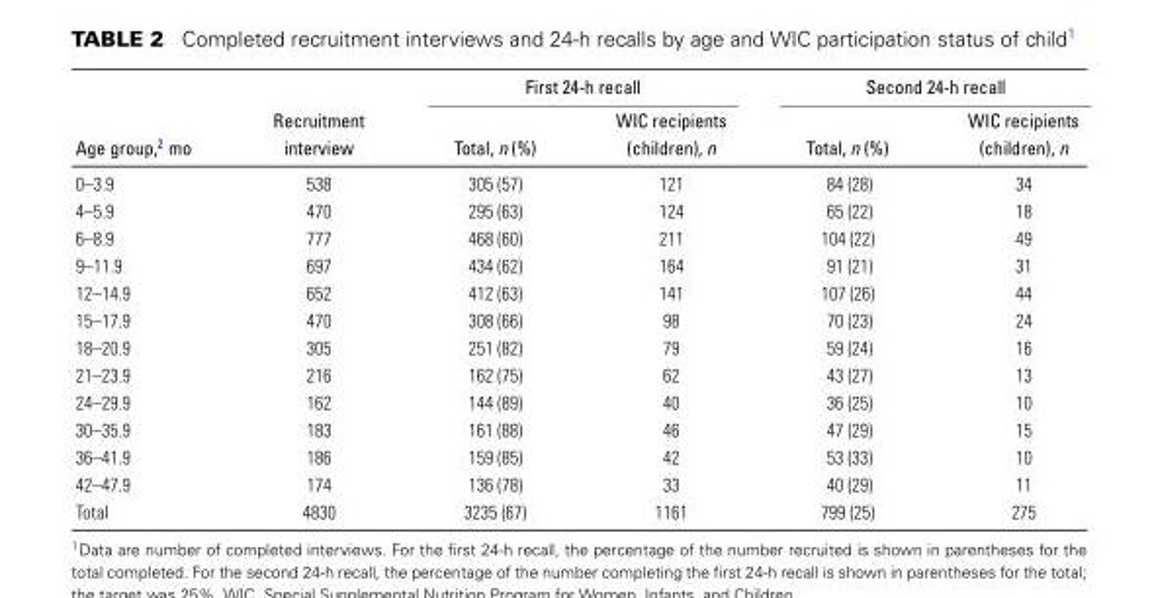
<table><thead><tr><td rowspan="2">Age group,<sup>2</sup> mo</td><td rowspan="2">Recruitment interview</td><td colspan="2">First 24-h recall</td><td colspan="2">Second 24-h recall</td></tr><tr><td>Total, n (%)</td><td>WIC recipients (children), n</td><td>Total, n (%)</td><td>WIC recipients (children), n</td></tr></thead><tbody><tr><td>0–3.9</td><td>538</td><td>305 (57)</td><td>121</td><td>84 (28)</td><td>34</td></tr><tr><td>4–5.9</td><td>470</td><td>295 (63)</td><td>124</td><td>65 (22)</td><td>18</td></tr><tr><td>6–8.9</td><td>777</td><td>468 (60)</td><td>211</td><td>104 (22)</td><td>49</td></tr><tr><td>9–11.9</td><td>697</td><td>434 (62)</td><td>164</td><td>91 (21)</td><td>31</td></tr><tr><td>12–14.9</td><td>652</td><td>412 (63)</td><td>141</td><td>107 (26)</td><td>44</td></tr><tr><td>15–17.9</td><td>470</td><td>308 (66)</td><td>98</td><td>70 (23)</td><td>24</td></tr><tr><td>18–20.9</td><td>305</td><td>251 (82)</td><td>79</td><td>59 (24)</td><td>16</td></tr><tr><td>21–23.9</td><td>216</td><td>162 (75)</td><td>62</td><td>43 (27)</td><td>13</td></tr><tr><td>24–29.9</td><td>162</td><td>144 (89)</td><td>40</td><td>36 (25)</td><td>10</td></tr><tr><td>30–35.9</td><td>183</td><td>161 (88)</td><td>46</td><td>47 (29)</td><td>15</td></tr><tr><td>36–41.9</td><td>186</td><td>159 (85)</td><td>42</td><td>53 (33)</td><td>10</td></tr><tr><td>42–47.9</td><td>174</td><td>136 (78)</td><td>33</td><td>40 (29)</td><td>11</td></tr><tr><td>Total</td><td>4830</td><td>3235 (67)</td><td>1161</td><td>799 (25)</td><td>275</td></tr></tbody></table>